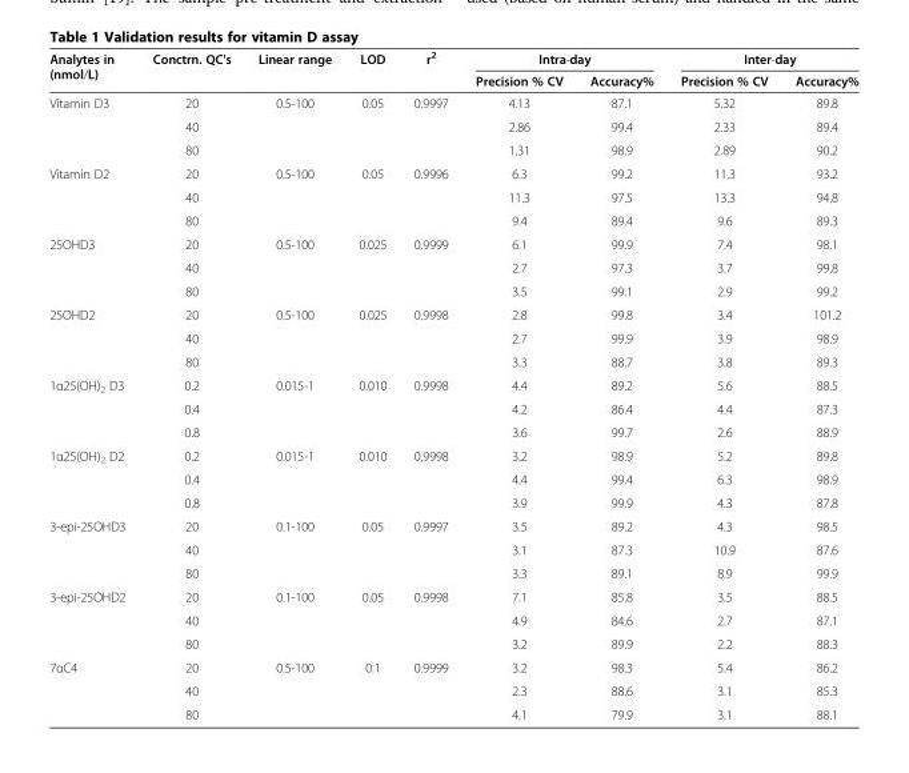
<table><thead><tr><td rowspan="2">Analytes in (nmol/L)</td><td rowspan="2">Conctrn. QC&#x27;s</td><td rowspan="2">Linear range</td><td rowspan="2">LOD</td><td rowspan="2">r<sup>2</sup></td><td colspan="2">Intra-day</td><td colspan="2">Inter-day</td></tr><tr><td>Precision % CV</td><td>Accuracy%</td><td>Precision % CV</td><td>Accuracy%</td></tr></thead><tbody><tr><td rowspan="3">Vitamin D3</td><td>20</td><td rowspan="3">0.5-100</td><td rowspan="3">0.05</td><td rowspan="3">0.9997</td><td>4.13</td><td>87.1</td><td>5.32</td><td>89.8</td></tr><tr><td>40</td><td>2.86</td><td>99.4</td><td>2.33</td><td>89.4</td></tr><tr><td>80</td><td>1.31</td><td>98.9</td><td>2.89</td><td>90.2</td></tr><tr><td rowspan="3">Vitamin D2</td><td>20</td><td rowspan="3">0.5-100</td><td rowspan="3">0.05</td><td rowspan="3">0.9996</td><td>6.3</td><td>99.2</td><td>11.3</td><td>93.2</td></tr><tr><td>40</td><td>11.3</td><td>97.5</td><td>13.3</td><td>94.8</td></tr><tr><td>80</td><td>9.4</td><td>89.4</td><td>9.6</td><td>89.3</td></tr><tr><td rowspan="3">25OHD3</td><td>20</td><td rowspan="3">0.5-100</td><td rowspan="3">0.025</td><td rowspan="3">0.9999</td><td>6.1</td><td>99.9</td><td>7.4</td><td>98.1</td></tr><tr><td>40</td><td>2.7</td><td>97.3</td><td>3.7</td><td>99.8</td></tr><tr><td>80</td><td>3.5</td><td>99.1</td><td>2.9</td><td>99.2</td></tr><tr><td rowspan="3">25OHD2</td><td>20</td><td rowspan="3">0.5-100</td><td rowspan="3">0.025</td><td rowspan="3">0.9998</td><td>2.8</td><td>99.8</td><td>3.4</td><td>101.2</td></tr><tr><td>40</td><td>2.7</td><td>99.9</td><td>3.9</td><td>98.9</td></tr><tr><td>80</td><td>3.3</td><td>88.7</td><td>3.8</td><td>89.3</td></tr><tr><td rowspan="3">1α25(OH)<sub>2</sub> D3</td><td>0.2</td><td rowspan="3">0.015-1</td><td rowspan="3">0.010</td><td rowspan="3">0.9998</td><td>4.4</td><td>89.2</td><td>5.6</td><td>88.5</td></tr><tr><td>0.4</td><td>4.2</td><td>86.4</td><td>4.4</td><td>87.3</td></tr><tr><td>0.8</td><td>3.6</td><td>99.7</td><td>2.6</td><td>88.9</td></tr><tr><td rowspan="3">1α25(OH)<sub>2</sub> D2</td><td>0.2</td><td rowspan="3">0.015-1</td><td rowspan="3">0.010</td><td rowspan="3">0.9998</td><td>3.2</td><td>98.9</td><td>5.2</td><td>89.8</td></tr><tr><td>0.4</td><td>4.4</td><td>99.4</td><td>6.3</td><td>98.9</td></tr><tr><td>0.8</td><td>3.9</td><td>99.9</td><td>4.3</td><td>87.8</td></tr><tr><td rowspan="3">3-epi-25OHD3</td><td>20</td><td rowspan="3">0.1-100</td><td rowspan="3">0.05</td><td rowspan="3">0.9997</td><td>3.5</td><td>89.2</td><td>4.3</td><td>98.5</td></tr><tr><td>40</td><td>3.1</td><td>87.3</td><td>10.9</td><td>87.6</td></tr><tr><td>80</td><td>3.3</td><td>89.1</td><td>8.9</td><td>99.9</td></tr><tr><td rowspan="3">3-epi-25OHD2</td><td>20</td><td rowspan="3">0.1-100</td><td rowspan="3">0.05</td><td rowspan="3">0.9998</td><td>7.1</td><td>85.8</td><td>3.5</td><td>88.5</td></tr><tr><td>40</td><td>4.9</td><td>84.6</td><td>2.7</td><td>87.1</td></tr><tr><td>80</td><td>3.2</td><td>89.9</td><td>2.2</td><td>88.3</td></tr><tr><td rowspan="3">7αC4</td><td>20</td><td rowspan="3">0.5-100</td><td rowspan="3">0.1</td><td rowspan="3">0.9999</td><td>3.2</td><td>98.3</td><td>5.4</td><td>86.2</td></tr><tr><td>40</td><td>2.3</td><td>88.6</td><td>3.1</td><td>85.3</td></tr><tr><td>80</td><td>4.1</td><td>79.9</td><td>3.1</td><td>88.1</td></tr></tbody></table>